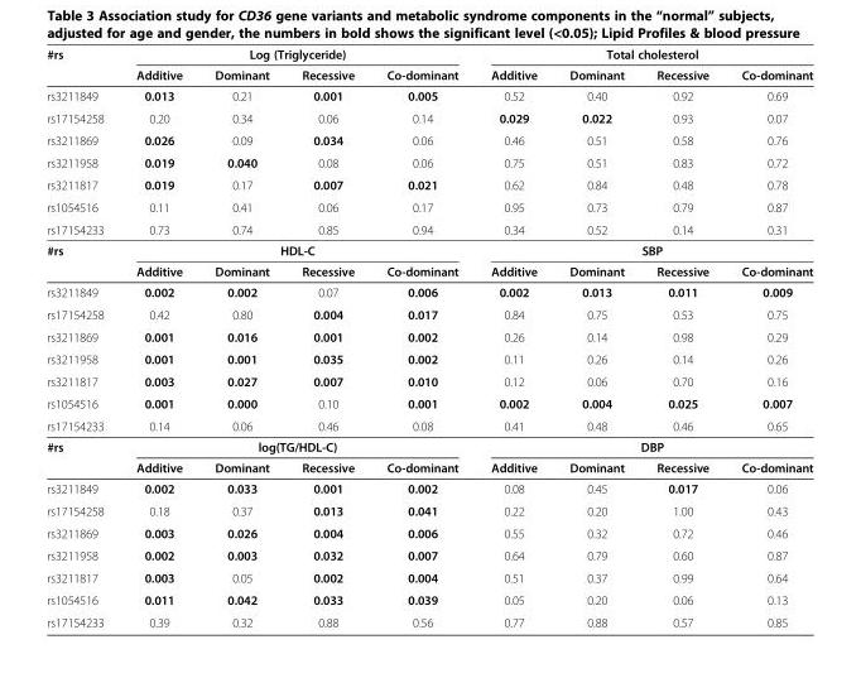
<table><thead><tr><td rowspan="2">#rs</td><td colspan="4">Log (Triglyceride)</td><td colspan="4">Total cholesterol</td></tr><tr><td>Additive</td><td>Dominant</td><td>Recessive</td><td>Co-dominant</td><td>Additive</td><td>Dominant</td><td>Recessive</td><td>Co-dominant</td></tr></thead><tbody><tr><td>rs3211849</td><td>0.013</td><td>0.21</td><td>0.001</td><td>0.005</td><td>0.52</td><td>0.40</td><td>0.92</td><td>0.69</td></tr><tr><td>rs17154258</td><td>0.20</td><td>0.34</td><td>0.06</td><td>0.14</td><td>0.029</td><td>0.022</td><td>0.93</td><td>0.07</td></tr><tr><td>rs3211869</td><td>0.026</td><td>0.09</td><td>0.034</td><td>0.06</td><td>0.46</td><td>0.51</td><td>0.58</td><td>0.76</td></tr><tr><td>rs3211958</td><td>0.019</td><td>0.040</td><td>0.08</td><td>0.06</td><td>0.75</td><td>0.51</td><td>0.83</td><td>0.72</td></tr><tr><td>rs3211817</td><td>0.019</td><td>0.17</td><td>0.007</td><td>0.021</td><td>0.62</td><td>0.84</td><td>0.48</td><td>0.78</td></tr><tr><td>rs1054516</td><td>0.11</td><td>0.41</td><td>0.06</td><td>0.17</td><td>0.95</td><td>0.73</td><td>0.79</td><td>0.87</td></tr><tr><td>rs17154233</td><td>0.73</td><td>0.74</td><td>0.85</td><td>0.94</td><td>0.34</td><td>0.52</td><td>0.14</td><td>0.31</td></tr><tr><td rowspan="2">#rs</td><td colspan="4">HDL-C</td><td colspan="4">SBP</td></tr><tr><td>Additive</td><td>Dominant</td><td>Recessive</td><td>Co-dominant</td><td>Additive</td><td>Dominant</td><td>Recessive</td><td>Co-dominant</td></tr><tr><td>rs3211849</td><td>0.002</td><td>0.002</td><td>0.07</td><td>0.006</td><td>0.002</td><td>0.013</td><td>0.011</td><td>0.009</td></tr><tr><td>rs17154258</td><td>0.42</td><td>0.80</td><td>0.004</td><td>0.017</td><td>0.84</td><td>0.75</td><td>0.53</td><td>0.75</td></tr><tr><td>rs3211869</td><td>0.001</td><td>0.016</td><td>0.001</td><td>0.002</td><td>0.26</td><td>0.14</td><td>0.98</td><td>0.29</td></tr><tr><td>rs3211958</td><td>0.001</td><td>0.001</td><td>0.035</td><td>0.002</td><td>0.11</td><td>0.26</td><td>0.14</td><td>0.26</td></tr><tr><td>rs3211817</td><td>0.003</td><td>0.027</td><td>0.007</td><td>0.010</td><td>0.12</td><td>0.06</td><td>0.70</td><td>0.16</td></tr><tr><td>rs1054516</td><td>0.001</td><td>0.000</td><td>0.10</td><td>0.001</td><td>0.002</td><td>0.004</td><td>0.025</td><td>0.007</td></tr><tr><td>rs17154233</td><td>0.14</td><td>0.06</td><td>0.46</td><td>0.08</td><td>0.41</td><td>0.48</td><td>0.46</td><td>0.65</td></tr><tr><td rowspan="2">#rs</td><td colspan="4">log(TG/HDL-C)</td><td colspan="4">DBP</td></tr><tr><td>Additive</td><td>Dominant</td><td>Recessive</td><td>Co-dominant</td><td>Additive</td><td>Dominant</td><td>Recessive</td><td>Co-dominant</td></tr><tr><td>rs3211849</td><td>0.002</td><td>0.033</td><td>0.001</td><td>0.002</td><td>0.08</td><td>0.45</td><td>0.017</td><td>0.06</td></tr><tr><td>rs17154258</td><td>0.18</td><td>0.37</td><td>0.013</td><td>0.041</td><td>0.22</td><td>0.20</td><td>1.00</td><td>0.43</td></tr><tr><td>rs3211869</td><td>0.003</td><td>0.026</td><td>0.004</td><td>0.006</td><td>0.55</td><td>0.32</td><td>0.72</td><td>0.46</td></tr><tr><td>rs3211958</td><td>0.002</td><td>0.003</td><td>0.032</td><td>0.007</td><td>0.64</td><td>0.79</td><td>0.60</td><td>0.87</td></tr><tr><td>rs3211817</td><td>0.003</td><td>0.05</td><td>0.002</td><td>0.004</td><td>0.51</td><td>0.37</td><td>0.99</td><td>0.64</td></tr><tr><td>rs1054516</td><td>0.011</td><td>0.042</td><td>0.033</td><td>0.039</td><td>0.05</td><td>0.20</td><td>0.06</td><td>0.13</td></tr><tr><td>rs17154233</td><td>0.39</td><td>0.32</td><td>0.88</td><td>0.56</td><td>0.77</td><td>0.88</td><td>0.57</td><td>0.85</td></tr></tbody></table>